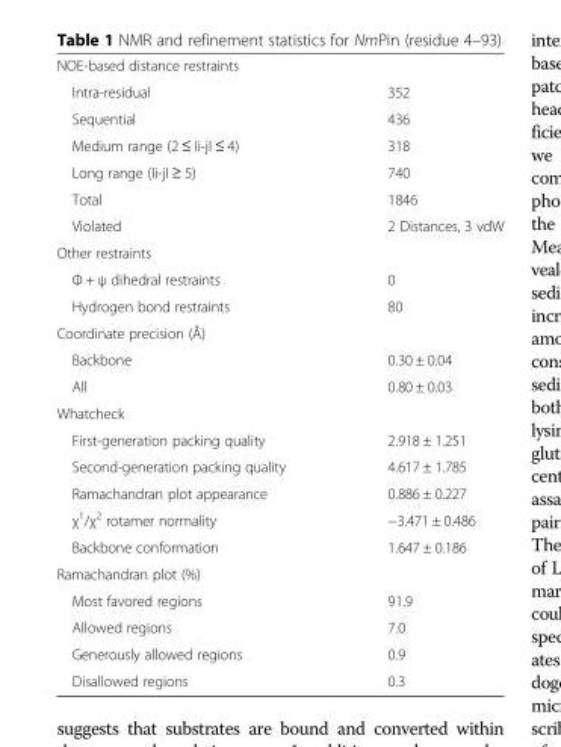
<table><tbody><tr><td colspan="2">NOE-based distance restraints</td></tr><tr><td>Intra-residual</td><td>352</td></tr><tr><td>Sequential</td><td>436</td></tr><tr><td>Medium range (2 ≤ Ii-jI ≤ 4)</td><td>318</td></tr><tr><td>Long range (Ii-jI ≥ 5)</td><td>740</td></tr><tr><td>Total</td><td>1846</td></tr><tr><td>Violated</td><td>2 Distances, 3 vdW</td></tr><tr><td colspan="2">Other restraints</td></tr><tr><td>Φ + ψ dihedral restraints</td><td>0</td></tr><tr><td>Hydrogen bond restraints</td><td>80</td></tr><tr><td colspan="2">Coordinate precision (Å)</td></tr><tr><td>Backbone</td><td>0.30 ± 0.04</td></tr><tr><td>All</td><td>0.80 ± 0.03</td></tr><tr><td colspan="2">Whatcheck</td></tr><tr><td>First-generation packing quality</td><td>2.918 ± 1.251</td></tr><tr><td>Second-generation packing quality</td><td>4.617 ± 1.785</td></tr><tr><td>Ramachandran plot appearance</td><td>0.886 ± 0.227</td></tr><tr><td>χ<sup>1</sup>/χ<sup>2</sup> rotamer normality</td><td>−3.471 ± 0.486</td></tr><tr><td>Backbone conformation</td><td>1.647 ± 0.186</td></tr><tr><td colspan="2">Ramachandran plot (%)</td></tr><tr><td>Most favored regions</td><td>91.9</td></tr><tr><td>Allowed regions</td><td>7.0</td></tr><tr><td>Generously allowed regions</td><td>0.9</td></tr><tr><td>Disallowed regions</td><td>0.3</td></tr></tbody></table>